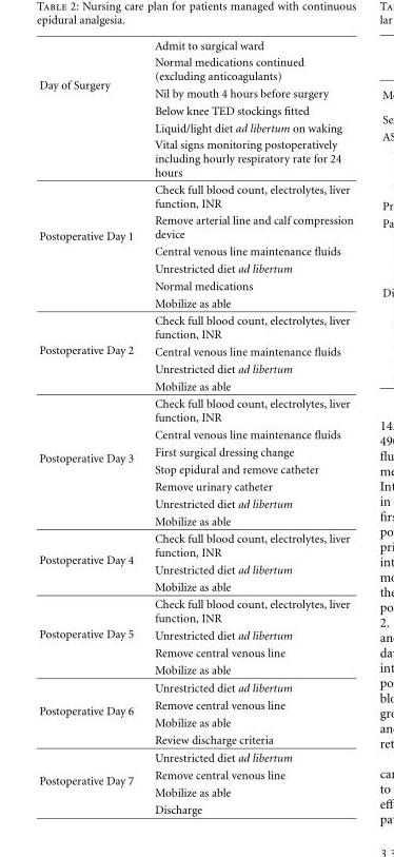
<table><tbody><tr><td rowspan="6">Day of Surgery</td><td>Admit to surgical ward</td></tr><tr><td>Normal medications continued (excluding anticoagulants)</td></tr><tr><td>Nil by mouth 4 hours before surgery</td></tr><tr><td>Below knee TED stockings fitted</td></tr><tr><td>Liquid/light diet ad libertum on waking</td></tr><tr><td>Vital signs monitoring postoperatively including hourly respiratory rate for 24 hours</td></tr><tr><td rowspan="6">Postoperative Day 1</td><td>Check full blood count, electrolytes, liver function, INR</td></tr><tr><td>Remove arterial line and calf compression device</td></tr><tr><td>Central venous line maintenance fluids</td></tr><tr><td>Unrestricted diet ad libertum</td></tr><tr><td>Normal medications</td></tr><tr><td>Mobilize as able</td></tr><tr><td rowspan="4">Postoperative Day 2</td><td>Check full blood count, electrolytes, liver function, INR</td></tr><tr><td>Central venous line maintenance fluids</td></tr><tr><td>Unrestricted diet ad libertum</td></tr><tr><td>Mobilize as able</td></tr><tr><td rowspan="7">Postoperative Day 3</td><td>Check full blood count, electrolytes, liver function, INR</td></tr><tr><td>Central venous line maintenance fluids</td></tr><tr><td>First surgical dressing change</td></tr><tr><td>Stop epidural and remove catheter</td></tr><tr><td>Remove urinary catheter</td></tr><tr><td>Unrestricted diet ad libertum</td></tr><tr><td>Mobilize as able</td></tr><tr><td rowspan="3">Postoperative Day 4</td><td>Check full blood count, electrolytes, liver function, INR</td></tr><tr><td>Unrestricted diet ad libertum</td></tr><tr><td>Mobilize as able</td></tr><tr><td rowspan="4">Postoperative Day 5</td><td>Check full blood count, electrolytes, liver function, INR</td></tr><tr><td>Unrestricted diet ad libertum</td></tr><tr><td>Remove central venous line</td></tr><tr><td>Mobilize as able</td></tr><tr><td rowspan="4">Postoperative Day 6</td><td>Unrestricted diet ad libertum</td></tr><tr><td>Remove central venous line</td></tr><tr><td>Mobilize as able</td></tr><tr><td>Review discharge criteria</td></tr><tr><td rowspan="4">Postoperative Day 7</td><td>Unrestricted diet ad libertum</td></tr><tr><td>Remove central venous line</td></tr><tr><td>Mobilize as able</td></tr><tr><td>Discharge</td></tr></tbody></table>